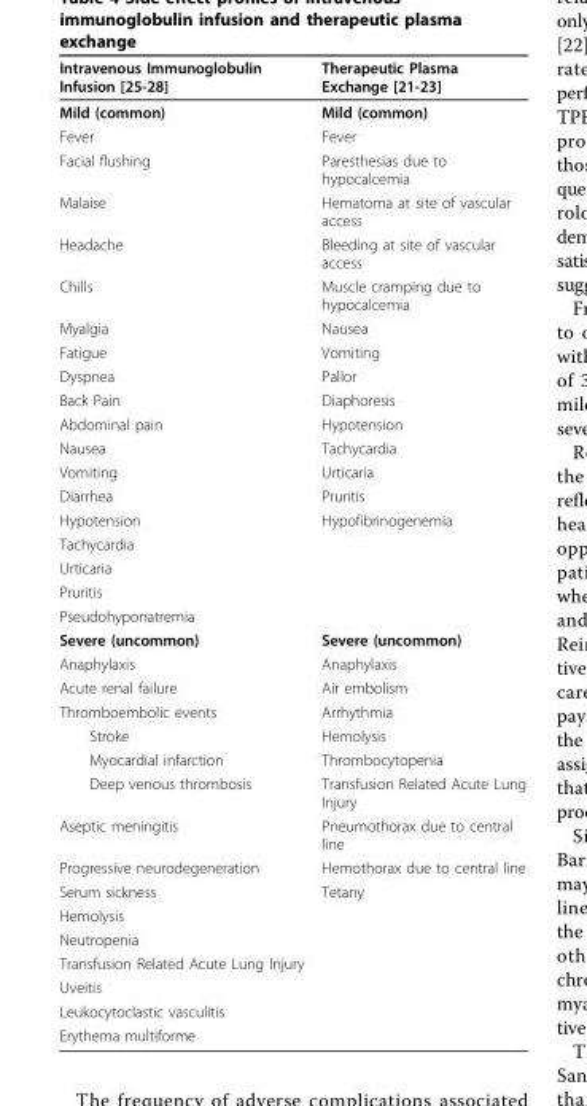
<table><thead><tr><td>Intravenous Immunoglobulin Infusion [25-28]</td><td>Therapeutic Plasma Exchange [21-23]</td></tr></thead><tbody><tr><td>Mild (common)</td><td>Mild (common)</td></tr><tr><td>Fever</td><td>Fever</td></tr><tr><td>Facial flushing</td><td>Paresthesias due to hypocalcemia</td></tr><tr><td>Malaise</td><td>Hematoma at site of vascular access</td></tr><tr><td>Headache</td><td>Bleeding at site of vascular access</td></tr><tr><td>Chills</td><td>Muscle cramping due to hypocalcemia</td></tr><tr><td>Myalgia</td><td>Nausea</td></tr><tr><td>Fatigue</td><td>Vomiting</td></tr><tr><td>Dyspnea</td><td>Pallor</td></tr><tr><td>Back Pain</td><td>Diaphoresis</td></tr><tr><td>Abdominal pain</td><td>Hypotension</td></tr><tr><td>Nausea</td><td>Tachycardia</td></tr><tr><td>Vomiting</td><td>Urticaria</td></tr><tr><td>Diarrhea</td><td>Pruritis</td></tr><tr><td>Hypotension</td><td>Hypofibrinogenemia</td></tr><tr><td colspan="2">Tachycardia</td></tr><tr><td colspan="2">Urticaria</td></tr><tr><td colspan="2">Pruritis</td></tr><tr><td colspan="2">Pseudohyponatremia</td></tr><tr><td>Severe (uncommon)</td><td>Severe (uncommon)</td></tr><tr><td>Anaphylaxis</td><td>Anaphylaxis</td></tr><tr><td>Acute renal failure</td><td>Air embolism</td></tr><tr><td>Thromboembolic events</td><td>Arrhythmia</td></tr><tr><td>Stroke</td><td>Hemolysis</td></tr><tr><td>Myocardial infarction</td><td>Thrombocytopenia</td></tr><tr><td>Deep venous thrombosis</td><td>Transfusion Related Acute Lung Injury</td></tr><tr><td>Aseptic meningitis</td><td>Pneumothorax due to central line</td></tr><tr><td>Progressive neurodegeneration</td><td>Hemothorax due to central line</td></tr><tr><td>Serum sickness</td><td>Tetany</td></tr><tr><td colspan="2">Hemolysis</td></tr><tr><td colspan="2">Neutropenia</td></tr><tr><td colspan="2">Transfusion Related Acute Lung Injury</td></tr><tr><td colspan="2">Uveitis</td></tr><tr><td colspan="2">Leukocytoclastic vasculitis</td></tr><tr><td>Erythema multiforme</td><td></td></tr></tbody></table>